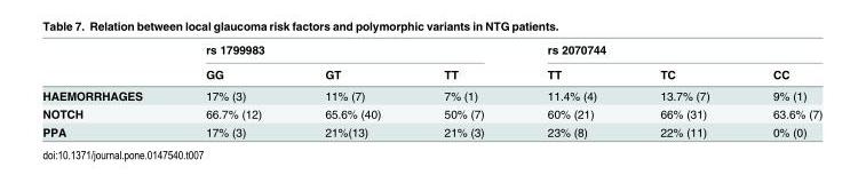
<table><thead><tr><td rowspan="2"></td><td colspan="3">rs 1799983</td><td colspan="3">rs 2070744</td></tr><tr><td>GG</td><td>GT</td><td>TT</td><td>TT</td><td>TC</td><td>CC</td></tr></thead><tbody><tr><td>HAEMORRHAGES</td><td>17% (3)</td><td>11% (7)</td><td>7% (1)</td><td>11.4% (4)</td><td>13.7% (7)</td><td>9% (1)</td></tr><tr><td>NOTCH</td><td>66.7% (12)</td><td>65.6% (40)</td><td>50% (7)</td><td>60% (21)</td><td>66% (31)</td><td>63.6% (7)</td></tr><tr><td>PPA</td><td>17% (3)</td><td>21%(13)</td><td>21% (3)</td><td>23% (8)</td><td>22% (11)</td><td>0% (0)</td></tr></tbody></table>